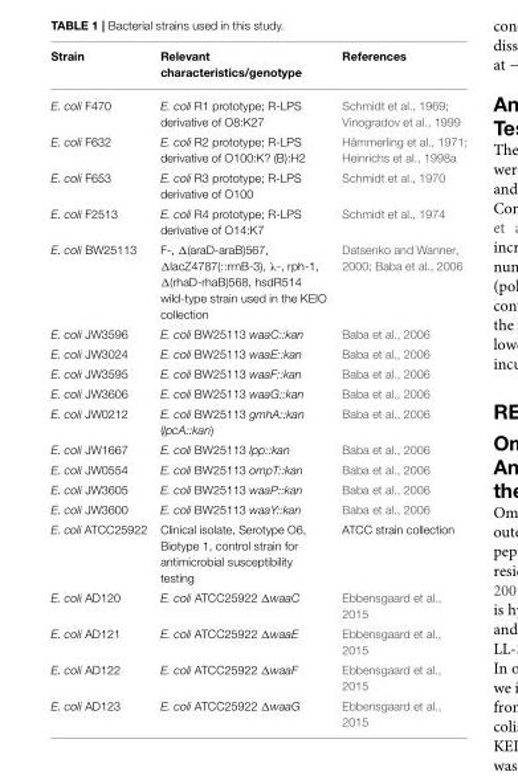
<table><thead><tr><td>Strain</td><td>Relevant characteristics/genotype</td><td>References</td></tr></thead><tbody><tr><td>E. coli F470</td><td>E. coli R1 prototype; R-LPS derivative of O8:K27</td><td>Schmidt et al., 1969; Vinogradov et al., 1999</td></tr><tr><td>E. coli F632</td><td>E. coli R2 prototype; R-LPS derivative of O100:K? (B):H2</td><td>Hämmerling et al., 1971; Heinrichs et al., 1998a</td></tr><tr><td>E. coli F653</td><td>E. coli R3 prototype; R-LPS derivative of O100</td><td>Schmidt et al., 1970</td></tr><tr><td>E. coli F2513</td><td>E. coli R4 prototype; R-LPS derivative of O14:K7</td><td>Schmidt et al., 1974</td></tr><tr><td>E. coli BW25113</td><td>F-, Δ(araD-araB)567, ΔlacZ4787(::rrnB-3), λ-, rph-1, Δ(rhaD-rhaB)568, hsdR514 wild-type strain used in the KEIO collection</td><td>Datsenko and Wanner, 2000; Baba et al., 2006</td></tr><tr><td>E. coli JW3596</td><td>E. coli BW25113 waaC::kan</td><td>Baba et al., 2006</td></tr><tr><td>E. coli JW3024</td><td>E. coli BW25113 waaE::kan</td><td>Baba et al., 2006</td></tr><tr><td>E. coli JW3595</td><td>E. coli BW25113 waaF::kan</td><td>Baba et al., 2006</td></tr><tr><td>E. coli JW3606</td><td>E. coli BW25113 waaG::kan</td><td>Baba et al., 2006</td></tr><tr><td>E. coli JW0212</td><td>E. coli BW25113 gmhA::kan (lpcA::kan)</td><td>Baba et al., 2006</td></tr><tr><td>E. coli JW1667</td><td>E. coli BW25113 lpp::kan</td><td>Baba et al., 2006</td></tr><tr><td>E. coli JW0554</td><td>E. coli BW25113 ompT::kan</td><td>Baba et al., 2006</td></tr><tr><td>E. coli JW3605</td><td>E. coli BW25113 waaP::kan</td><td>Baba et al., 2006</td></tr><tr><td>E. coli JW3600</td><td>E. coli BW25113 waaY::kan</td><td>Baba et al., 2006</td></tr><tr><td>E. coli ATCC25922</td><td>Clinical isolate, Serotype O6, Biotype 1, control strain for antimicrobial susceptibility testing</td><td>ATCC strain collection</td></tr><tr><td>E. coli AD120</td><td>E. coli ATCC25922 ΔwaaC</td><td>Ebbensgaard et al., 2015</td></tr><tr><td>E. coli AD121</td><td>E. coli ATCC25922 ΔwaaE</td><td>Ebbensgaard et al., 2015</td></tr><tr><td>E. coli AD122</td><td>E. coli ATCC25922 ΔwaaF</td><td>Ebbensgaard et al., 2015</td></tr><tr><td>E. coli AD123</td><td>E. coli ATCC25922 ΔwaaG</td><td>Ebbensgaard et al., 2015</td></tr></tbody></table>